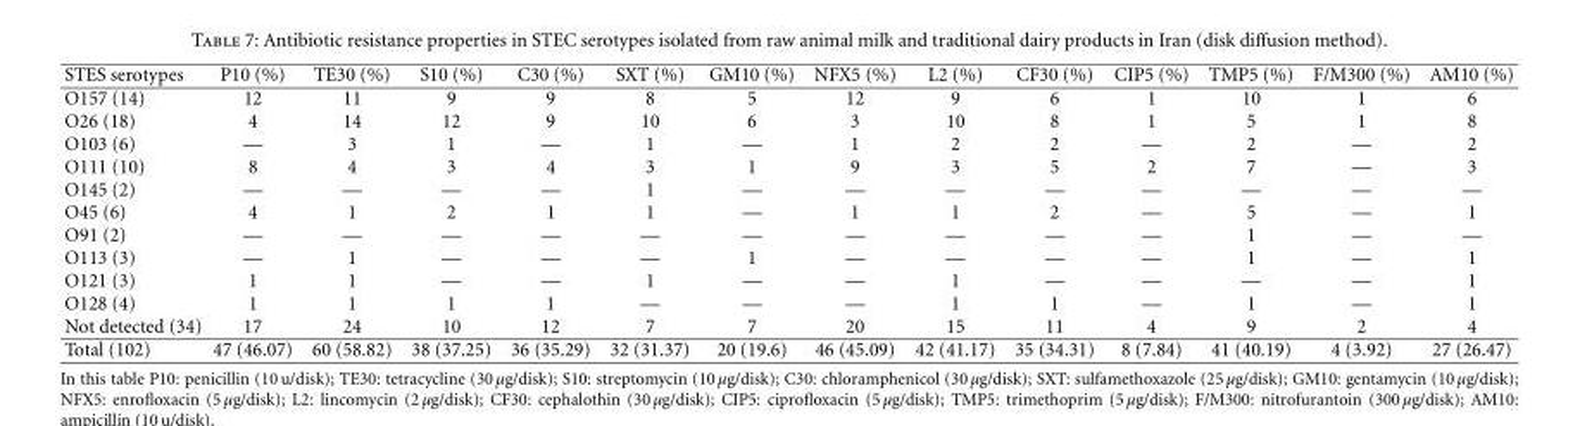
<table><thead><tr><td>STES serotypes</td><td>P10 (%)</td><td>TE30 (%)</td><td>S10 (%)</td><td>C30 (%)</td><td>SXT (%)</td><td>GM10 (%)</td><td>NFX5 (%)</td><td>L2 (%)</td><td>CF30 (%)</td><td>CIP5 (%)</td><td>TMP5 (%)</td><td>F/M300 (%)</td><td>AM10 (%)</td></tr></thead><tbody><tr><td>O157 (14)</td><td>12</td><td>11</td><td>9</td><td>9</td><td>8</td><td>5</td><td>12</td><td>9</td><td>6</td><td>1</td><td>10</td><td>1</td><td>6</td></tr><tr><td>O26 (18)</td><td>4</td><td>14</td><td>12</td><td>9</td><td>10</td><td>6</td><td>3</td><td>10</td><td>8</td><td>1</td><td>5</td><td>1</td><td>8</td></tr><tr><td>O103 (6)</td><td>—</td><td>3</td><td>1</td><td>—</td><td>1</td><td>—</td><td>1</td><td>2</td><td>2</td><td>—</td><td>2</td><td>—</td><td>2</td></tr><tr><td>O111 (10)</td><td>8</td><td>4</td><td>3</td><td>4</td><td>3</td><td>1</td><td>9</td><td>3</td><td>5</td><td>2</td><td>7</td><td>—</td><td>3</td></tr><tr><td>O145 (2)</td><td>—</td><td>—</td><td>—</td><td>—</td><td>1</td><td>—</td><td>—</td><td>—</td><td>—</td><td>—</td><td>—</td><td>—</td><td>—</td></tr><tr><td>O45 (6)</td><td>4</td><td>1</td><td>2</td><td>1</td><td>1</td><td>—</td><td>1</td><td>1</td><td>2</td><td>—</td><td>5</td><td>—</td><td>1</td></tr><tr><td>O91 (2)</td><td>—</td><td>—</td><td>—</td><td>—</td><td>—</td><td>—</td><td>—</td><td>—</td><td>—</td><td>—</td><td>1</td><td>—</td><td>—</td></tr><tr><td>O113 (3)</td><td>—</td><td>1</td><td>—</td><td>—</td><td>—</td><td>1</td><td>—</td><td>—</td><td>—</td><td>—</td><td>1</td><td>—</td><td>1</td></tr><tr><td>O121 (3)</td><td>1</td><td>1</td><td>—</td><td>—</td><td>1</td><td>—</td><td>—</td><td>1</td><td>—</td><td>—</td><td>—</td><td>—</td><td>1</td></tr><tr><td>O128 (4)</td><td>1</td><td>1</td><td>1</td><td>1</td><td>—</td><td>—</td><td>—</td><td>1</td><td>1</td><td>—</td><td>1</td><td>—</td><td>1</td></tr><tr><td>Not detected (34)</td><td>17</td><td>24</td><td>10</td><td>12</td><td>7</td><td>7</td><td>20</td><td>15</td><td>11</td><td>4</td><td>9</td><td>2</td><td>4</td></tr><tr><td>Total (102)</td><td>47 (46.07)</td><td>60 (58.82)</td><td>38 (37.25)</td><td>36 (35.29)</td><td>32 (31.37)</td><td>20 (19.6)</td><td>46 (45.09)</td><td>42 (41.17)</td><td>35 (34.31)</td><td>8 (7.84)</td><td>41 (40.19)</td><td>4 (3.92)</td><td>27 (26.47)</td></tr></tbody></table>